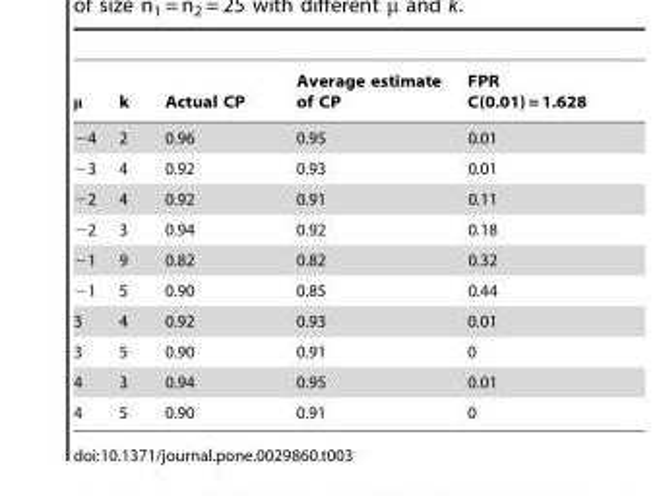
<table><thead><tr><td>μ</td><td>k</td><td>Actual CP</td><td>Average estimate of CP</td><td>FPR C(0.01) = 1.628</td></tr></thead><tbody><tr><td>−4</td><td>2</td><td>0.96</td><td>0.95</td><td>0.01</td></tr><tr><td>−3</td><td>4</td><td>0.92</td><td>0.93</td><td>0.01</td></tr><tr><td>−2</td><td>4</td><td>0.92</td><td>0.91</td><td>0.11</td></tr><tr><td>−2</td><td>3</td><td>0.94</td><td>0.92</td><td>0.18</td></tr><tr><td>−1</td><td>9</td><td>0.82</td><td>0.82</td><td>0.32</td></tr><tr><td>−1</td><td>5</td><td>0.90</td><td>0.85</td><td>0.44</td></tr><tr><td>3</td><td>4</td><td>0.92</td><td>0.93</td><td>0.01</td></tr><tr><td>3</td><td>5</td><td>0.90</td><td>0.91</td><td>0</td></tr><tr><td>4</td><td>3</td><td>0.94</td><td>0.95</td><td>0.01</td></tr><tr><td>4</td><td>5</td><td>0.90</td><td>0.91</td><td>0</td></tr></tbody></table>